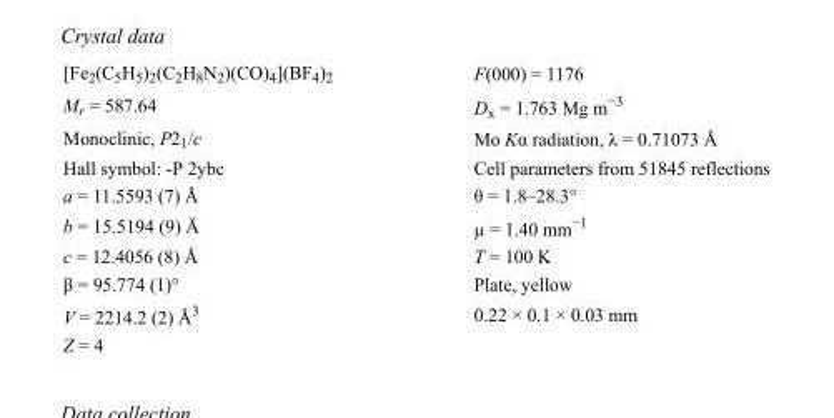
<table><tbody><tr><td>[Fe<sub>2</sub>(C<sub>5</sub>H<sub>5</sub>)<sub>2</sub>(C<sub>2</sub>H<sub>8</sub>N<sub>2</sub>)(CO)<sub>4</sub>](BF<sub>4</sub>)<sub>2</sub></td><td>F(000) = 1176</td></tr><tr><td>M<sub>r</sub> = 587.64</td><td>D<sub>x</sub> = 1.763 Mg m<sup>−3</sup></td></tr><tr><td>Monoclinic, P2<sub>1</sub>/c</td><td>Mo Kα radiation, λ = 0.71073 Å</td></tr><tr><td>Hall symbol: -P 2ybc</td><td>Cell parameters from 51845 reflections</td></tr><tr><td>a = 11.5593 (7) Å</td><td>θ = 1.8–28.3°</td></tr><tr><td>b = 15.5194 (9) Å</td><td>µ = 1.40 mm<sup>−1</sup></td></tr><tr><td>c = 12.4056 (8) Å</td><td>T = 100 K</td></tr><tr><td>β = 95.774 (1)°</td><td>Plate, yellow</td></tr><tr><td>V = 2214.2 (2) Å<sup>3</sup></td><td>0.22 × 0.1 × 0.03 mm</td></tr><tr><td>Z = 4</td><td></td></tr></tbody></table>